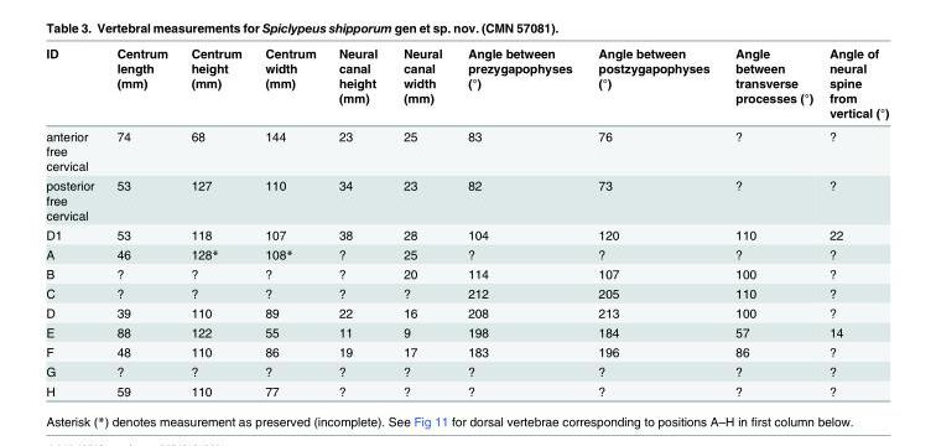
<table><thead><tr><td>ID</td><td>Centrum length (mm)</td><td>Centrum height (mm)</td><td>Centrum width (mm)</td><td>Neural canal height (mm)</td><td>Neural canal width (mm)</td><td>Angle between prezygapophyses (°)</td><td>Angle between postzygapophyses (°)</td><td>Angle between transverse processes (°)</td><td>Angle of neural spine from vertical (°)</td></tr></thead><tbody><tr><td>anterior free cervical</td><td>74</td><td>68</td><td>144</td><td>23</td><td>25</td><td>83</td><td>76</td><td>?</td><td>?</td></tr><tr><td>posterior free cervical</td><td>53</td><td>127</td><td>110</td><td>34</td><td>23</td><td>82</td><td>73</td><td>?</td><td>?</td></tr><tr><td>D1</td><td>53</td><td>118</td><td>107</td><td>38</td><td>28</td><td>104</td><td>120</td><td>110</td><td>22</td></tr><tr><td>A</td><td>46</td><td>128*</td><td>108*</td><td>?</td><td>25</td><td>?</td><td>?</td><td>?</td><td>?</td></tr><tr><td>B</td><td>?</td><td>?</td><td>?</td><td>?</td><td>20</td><td>114</td><td>107</td><td>100</td><td>?</td></tr><tr><td>C</td><td>?</td><td>?</td><td>?</td><td>?</td><td>?</td><td>212</td><td>205</td><td>110</td><td>?</td></tr><tr><td>D</td><td>39</td><td>110</td><td>89</td><td>22</td><td>16</td><td>208</td><td>213</td><td>100</td><td>?</td></tr><tr><td>E</td><td>88</td><td>122</td><td>55</td><td>11</td><td>9</td><td>198</td><td>184</td><td>57</td><td>14</td></tr><tr><td>F</td><td>48</td><td>110</td><td>86</td><td>19</td><td>17</td><td>183</td><td>196</td><td>86</td><td>?</td></tr><tr><td>G</td><td>?</td><td>?</td><td>?</td><td>?</td><td>?</td><td>?</td><td>?</td><td>?</td><td>?</td></tr><tr><td>H</td><td>59</td><td>110</td><td>77</td><td>?</td><td>?</td><td>?</td><td>?</td><td>?</td><td>?</td></tr></tbody></table>